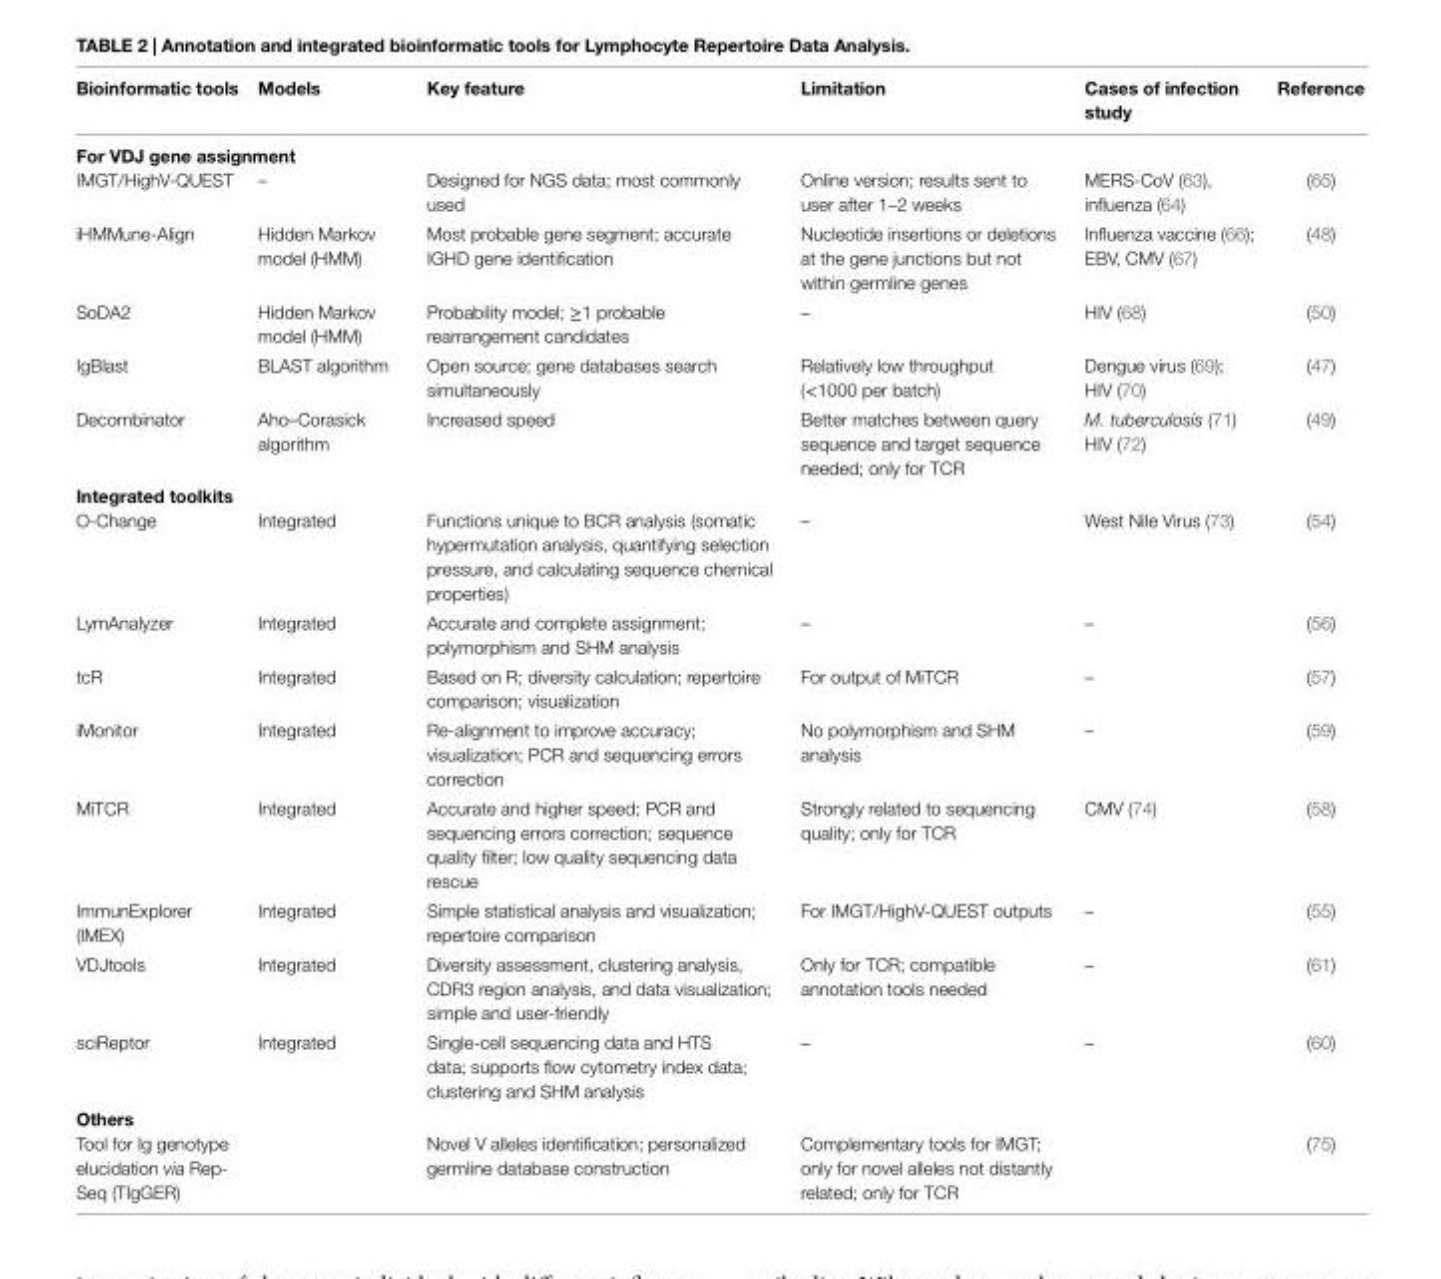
<table><thead><tr><td>Bioinformatic tools</td><td>Models</td><td>Key feature</td><td>Limitation</td><td>Cases of infection study</td><td>Reference</td></tr></thead><tbody><tr><td colspan="6">For vDJ gene assignment</td></tr><tr><td>IMGT/HighV-QUEST</td><td>–</td><td>Designed for NGS data; most commonly used</td><td>Online version; results sent to user after 1–2 weeks</td><td>MERS-CoV (63), influenza (64)</td><td>(65)</td></tr><tr><td>iHMMune-Align</td><td>Hidden Markov model (HMM)</td><td>Most probable gene segment; accurate IGHD gene identification</td><td>Nucleotide insertions or deletions at the gene junctions but not within germline genes</td><td>Influenza vaccine (66); EBV, CMV (67)</td><td>(48)</td></tr><tr><td>SoDA2</td><td>Hidden Markov model (HMM)</td><td>Probability model; ≥1 probable rearrangement candidates</td><td>–</td><td>HIV (68)</td><td>(50)</td></tr><tr><td>IgBlast</td><td>BLAST algorithm</td><td>Open source; gene databases search simultaneously</td><td>Relatively low throughput (&lt;1000 per batch)</td><td>Dengue virus (69); HIV (70)</td><td>(47)</td></tr><tr><td>Decombinator</td><td>Aho–Corasick algorithm</td><td>Increased speed</td><td>Better matches between query sequence and target sequence needed; only for TCR</td><td>M. tuberculosis (71) HIV (72)</td><td>(49)</td></tr><tr><td colspan="6">integrated toolkits</td></tr><tr><td>O-Change</td><td>Integrated</td><td>Functions unique to BCR analysis (somatic hypermutation analysis, quantifying selection pressure, and calculating sequence chemical properties)</td><td>–</td><td>West Nile Virus (73)</td><td>(54)</td></tr><tr><td>LymAnalyzer</td><td>Integrated</td><td>Accurate and complete assignment; polymorphism and SHM analysis</td><td>–</td><td>–</td><td>(56)</td></tr><tr><td>tcR</td><td>Integrated</td><td>Based on R; diversity calculation; repertoire comparison; visualization</td><td>For output of MiTCR</td><td>–</td><td>(57)</td></tr><tr><td>iMonitor</td><td>Integrated</td><td>Re-alignment to improve accuracy; visualization; PCR and sequencing errors correction</td><td>No polymorphism and SHM analysis</td><td>–</td><td>(59)</td></tr><tr><td>MiTCR</td><td>Integrated</td><td>Accurate and higher speed; PCR and sequencing errors correction; sequence quality filter; low quality sequencing data rescue</td><td>Strongly related to sequencing quality; only for TCR</td><td>CMV (74)</td><td>(58)</td></tr><tr><td>ImmunExplorer (IMEX)</td><td>Integrated</td><td>Simple statistical analysis and visualization; repertoire comparison</td><td>For IMGT/HighV-QUEST outputs</td><td>–</td><td>(55)</td></tr><tr><td>VDJtools</td><td>Integrated</td><td>Diversity assessment, clustering analysis, CDR3 region analysis, and data visualization; simple and user-friendly</td><td>Only for TCR; compatible annotation tools needed</td><td>–</td><td>(61)</td></tr><tr><td>sciReptor</td><td>Integrated</td><td>Single-cell sequencing data and HTS data; supports flow cytometry index data; clustering and SHM analysis</td><td>–</td><td>–</td><td>(60)</td></tr><tr><td colspan="6">Others</td></tr><tr><td>Tool for Ig genotype elucidation via Rep- Seq (TIgGER)</td><td></td><td>Novel V alleles identification; personalized germline database construction</td><td>Complementary tools for IMGT; only for novel alleles not distantly related; only for TCR</td><td></td><td>(75)</td></tr></tbody></table>